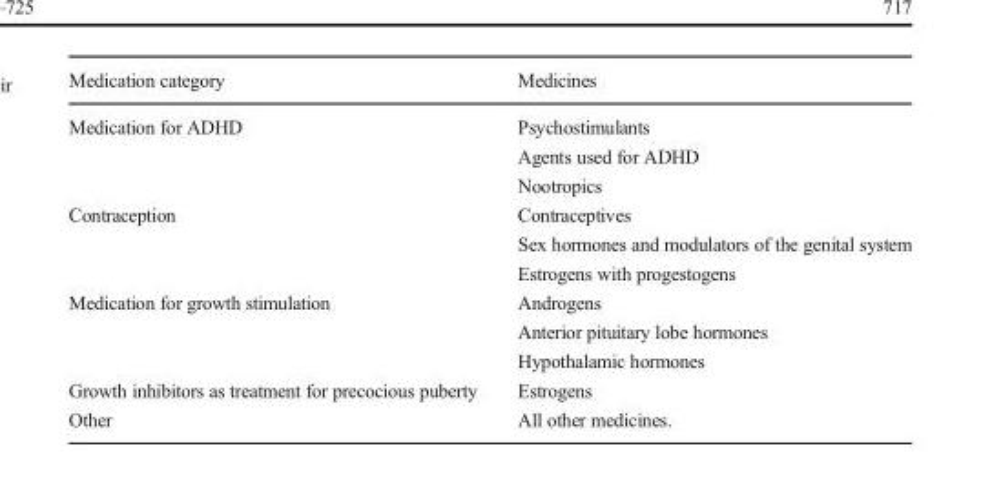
<table><thead><tr><td>Medication category</td><td>Medicines</td></tr></thead><tbody><tr><td rowspan="3">Medication for ADHD</td><td>Psychostimulants</td></tr><tr><td>Agents used for ADHD</td></tr><tr><td>Nootropics</td></tr><tr><td rowspan="3">Contraception</td><td>Contraceptives</td></tr><tr><td>Sex hormones and modulators of the genital system</td></tr><tr><td>Estrogens with progestogens</td></tr><tr><td rowspan="3">Medication for growth stimulation</td><td>Androgens</td></tr><tr><td>Anterior pituitary lobe hormones</td></tr><tr><td>Hypothalamic hormones</td></tr><tr><td>Growth inhibitors as treatment for precocious puberty</td><td>Estrogens</td></tr><tr><td>Other</td><td>All other medicines.</td></tr></tbody></table>